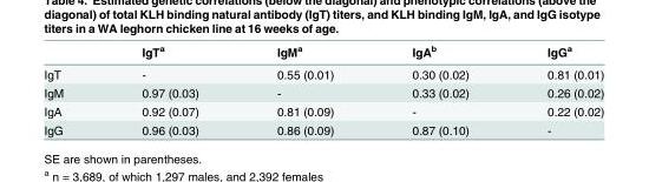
<table><thead><tr><td></td><td>IgT<sup>a</sup></td><td>IgM<sup>a</sup></td><td>IgA<sup>b</sup></td><td>IgG<sup>a</sup></td></tr></thead><tbody><tr><td>IgT</td><td>-</td><td>0.55 (0.01)</td><td>0.30 (0.02)</td><td>0.81 (0.01)</td></tr><tr><td>IgM</td><td>0.97 (0.03)</td><td>-</td><td>0.33 (0.02)</td><td>0.26 (0.02)</td></tr><tr><td>IgA</td><td>0.92 (0.07)</td><td>0.81 (0.09)</td><td>-</td><td>0.22 (0.02)</td></tr><tr><td>IgG</td><td>0.96 (0.03)</td><td>0.86 (0.09)</td><td>0.87 (0.10)</td><td>-</td></tr></tbody></table>